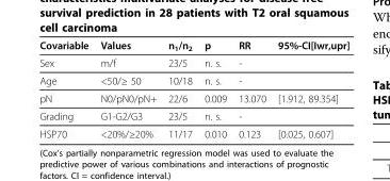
<table><thead><tr><td>Covariable</td><td>Values</td><td>n<sub>1</sub>/n<sub>2</sub></td><td>p</td><td>RR</td><td>95%-CI[Iwr,upr]</td></tr></thead><tbody><tr><td>Sex</td><td>m/f</td><td>23/5</td><td>n. s.</td><td>-</td><td></td></tr><tr><td>Age</td><td>&lt;50/≥ 50</td><td>10/18</td><td>n. s.</td><td>-</td><td></td></tr><tr><td>pN</td><td>N0/pN0/pN+</td><td>22/6</td><td>0.009</td><td>13.070</td><td>[1.912, 89.354]</td></tr><tr><td>Grading</td><td>G1-G2/G3</td><td>23/5</td><td>n. s.</td><td>-</td><td></td></tr><tr><td>HSP70</td><td>&lt;20%/≥20%</td><td>11/17</td><td>0.010</td><td>0.123</td><td>[0.025, 0.607]</td></tr></tbody></table>